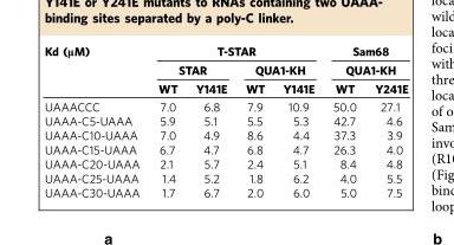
<table><thead><tr><td rowspan="3">Kd (μM)</td><td colspan="4">T-STAR</td><td rowspan="2" colspan="2">Sam68 QUA1-KH</td></tr><tr><td colspan="2">STAR</td><td colspan="2">QUA1-KH</td></tr><tr><td>WT</td><td>Y141E</td><td>WT</td><td>Y141E</td><td>WT</td><td>Y241E</td></tr></thead><tbody><tr><td>UAAACCC</td><td>7.0</td><td>6.8</td><td>7.9</td><td>10.9</td><td>50.0</td><td>27.1</td></tr><tr><td>UAAA-C5-UAAA</td><td>5.9</td><td>5.1</td><td>5.5</td><td>5.3</td><td>42.7</td><td>4.6</td></tr><tr><td>UAAA-C10-UAAA</td><td>7.0</td><td>4.9</td><td>8.6</td><td>4.4</td><td>37.3</td><td>3.9</td></tr><tr><td>UAAA-C15-UAAA</td><td>6.7</td><td>4.7</td><td>6.8</td><td>4.7</td><td>26.3</td><td>4.0</td></tr><tr><td>UAAA-C20-UAAA</td><td>2.1</td><td>5.7</td><td>2.4</td><td>5.1</td><td>8.4</td><td>4.8</td></tr><tr><td>UAAA-C25-UAAA</td><td>1.4</td><td>5.2</td><td>1.8</td><td>6.2</td><td>4.0</td><td>5.5</td></tr><tr><td>UAAA-C30-UAAA</td><td>1.7</td><td>6.7</td><td>2.0</td><td>6.0</td><td>5.0</td><td>7.5</td></tr></tbody></table>